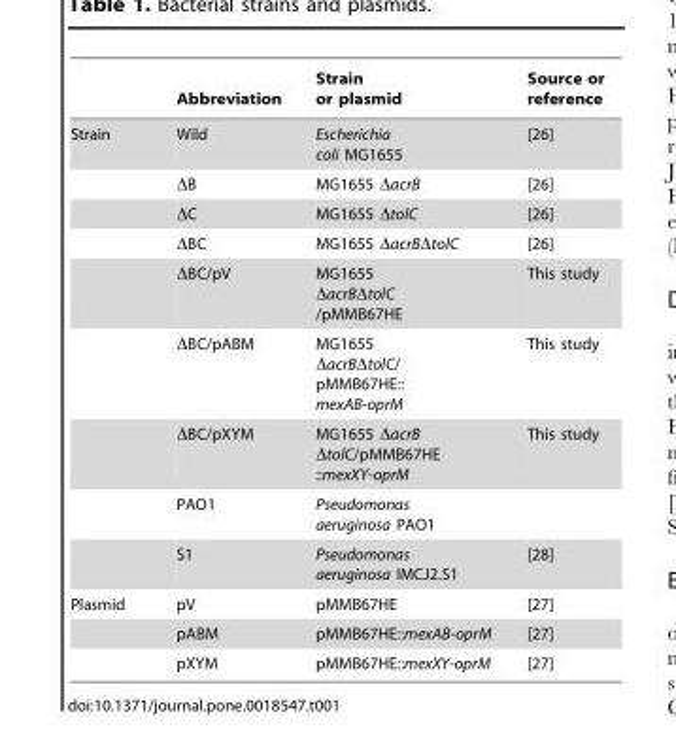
<table><thead><tr><td></td><td>Abbreviation</td><td>Strain or plasmid</td><td>Source or reference</td></tr></thead><tbody><tr><td rowspan="9">Strain</td><td>Wild</td><td>Escherichia coli MG1655</td><td>[26]</td></tr><tr><td>ΔB</td><td>MG1655 ΔacrB</td><td>[26]</td></tr><tr><td>ΔC</td><td>MG1655 ΔtolC</td><td>[26]</td></tr><tr><td>ΔBC</td><td>MG1655 ΔacrBΔtolC</td><td>[26]</td></tr><tr><td>ΔBC/pV</td><td>MG1655 ΔacrBΔtolC /pMMB67HE</td><td>This study</td></tr><tr><td>ΔBC/pABM</td><td>MG1655 ΔacrBΔtolC/ pMMB67HE:: mexAB-oprM</td><td>This study</td></tr><tr><td>ΔBC/pXYM</td><td>MG1655 ΔacrB ΔtolC/pMMB67HE ::mexXY-oprM</td><td>This study</td></tr><tr><td>PAO1</td><td>Pseudomonas aeruginosa PAO1</td><td></td></tr><tr><td>S1</td><td>Pseudomonas aeruginosa IMCJ2.S1</td><td>[28]</td></tr><tr><td rowspan="3">Plasmid</td><td>pV</td><td>pMMB67HE</td><td>[27]</td></tr><tr><td>pABM</td><td>pMMB67HE::mexAB-oprM</td><td>[27]</td></tr><tr><td>pXYM</td><td>pMMB67HE::mexXY-oprM</td><td>[27]</td></tr></tbody></table>